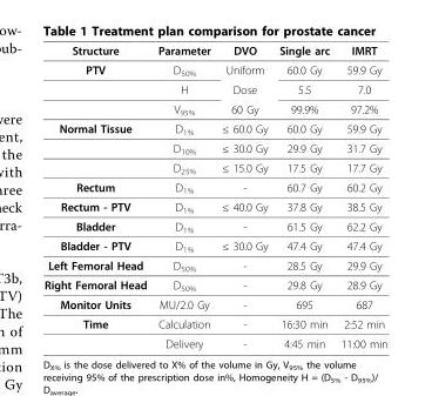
<table><thead><tr><td>Structure</td><td>Parameter</td><td>DVO</td><td>Single arc</td><td>IMRT</td></tr></thead><tbody><tr><td rowspan="3">PTV</td><td>D<sub>50%</sub></td><td>Uniform</td><td>60.0 Gy</td><td>59.9 Gy</td></tr><tr><td>H</td><td>Dose</td><td>5.5</td><td>7.0</td></tr><tr><td>V<sub>95%</sub></td><td>60 Gy</td><td>99.9%</td><td>97.2%</td></tr><tr><td rowspan="3">Normal Tissue</td><td>D<sub>1%</sub></td><td>≤ 60.0 Gy</td><td>60.0 Gy</td><td>59.9 Gy</td></tr><tr><td>D<sub>10%</sub></td><td>≤ 30.0 Gy</td><td>29.9 Gy</td><td>31.7 Gy</td></tr><tr><td>D<sub>25%</sub></td><td>≤ 15.0 Gy</td><td>17.5 Gy</td><td>17.7 Gy</td></tr><tr><td>Rectum</td><td>D<sub>1%</sub></td><td>-</td><td>60.7 Gy</td><td>60.2 Gy</td></tr><tr><td>Rectum - PTV</td><td>D<sub>1%</sub></td><td>≤ 40.0 Gy</td><td>37.8 Gy</td><td>38.5 Gy</td></tr><tr><td>Bladder</td><td>D<sub>1%</sub></td><td>-</td><td>61.5 Gy</td><td>62.2 Gy</td></tr><tr><td>Bladder - PTV</td><td>D<sub>1%</sub></td><td>≤ 30.0 Gy</td><td>47.4 Gy</td><td>47.4 Gy</td></tr><tr><td>Left Femoral Head</td><td>D<sub>50%</sub></td><td>-</td><td>28.5 Gy</td><td>29.9 Gy</td></tr><tr><td>Right Femoral Head</td><td>D<sub>50%</sub></td><td>-</td><td>29.8 Gy</td><td>28.9 Gy</td></tr><tr><td>Monitor Units</td><td>MU/2.0 Gy</td><td>-</td><td>695</td><td>687</td></tr><tr><td rowspan="2">Time</td><td>Calculation</td><td>-</td><td>16:30 min</td><td>2:52 min</td></tr><tr><td>Delivery</td><td>-</td><td>4:45 min</td><td>11:00 min</td></tr></tbody></table>